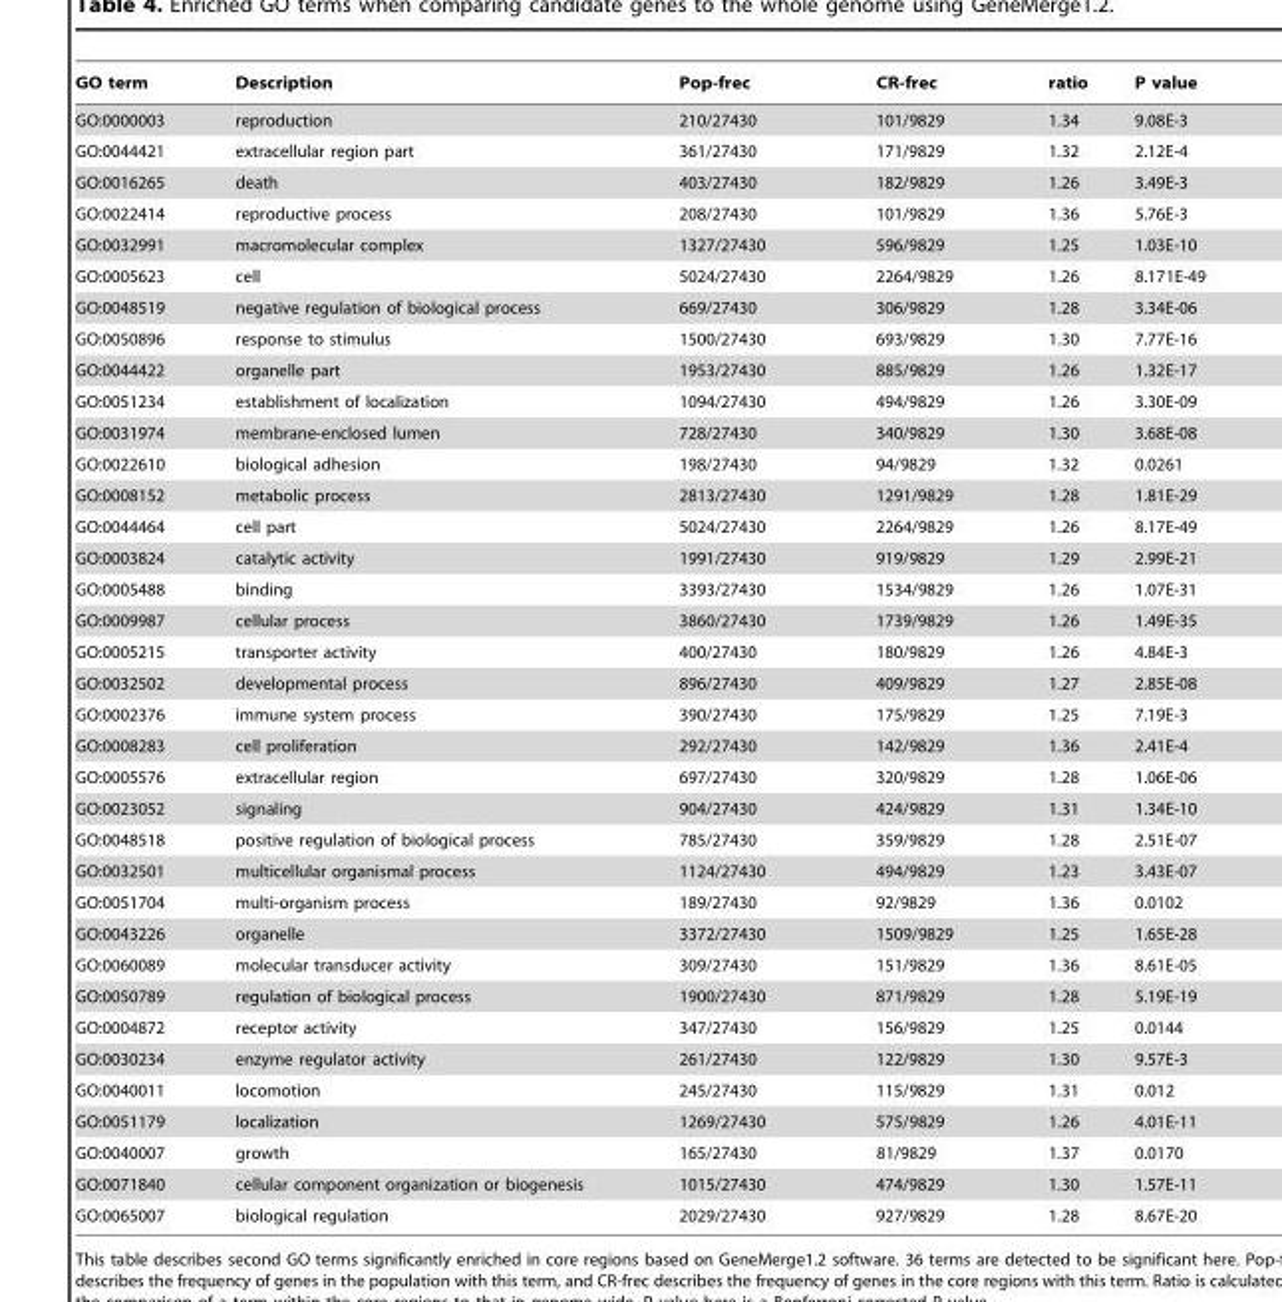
<table><thead><tr><td>GO term</td><td>Description</td><td>Pop-frec</td><td>CR-frec</td><td>ratio</td><td>P value</td></tr></thead><tbody><tr><td>GO:0000003</td><td>reproduction</td><td>210/27430</td><td>101/9829</td><td>1.34</td><td>9.08E-3</td></tr><tr><td>GO:0044421</td><td>extracellular region part</td><td>361/27430</td><td>171/9829</td><td>1.32</td><td>2.12E-4</td></tr><tr><td>GO:0016265</td><td>death</td><td>403/27430</td><td>182/9829</td><td>1.26</td><td>3.49E-3</td></tr><tr><td>GO:0022414</td><td>reproductive process</td><td>208/27430</td><td>101/9829</td><td>1.36</td><td>5.76E-3</td></tr><tr><td>GO:0032991</td><td>macromolecular complex</td><td>1327/27430</td><td>596/9829</td><td>1.25</td><td>1.03E-10</td></tr><tr><td>GO:0005623</td><td>cell</td><td>5024/27430</td><td>2264/9829</td><td>1.26</td><td>8.171E-49</td></tr><tr><td>GO:0048519</td><td>negative regulation of biological process</td><td>669/27430</td><td>306/9829</td><td>1.28</td><td>3.34E-06</td></tr><tr><td>GO:0050896</td><td>response to stimulus</td><td>1500/27430</td><td>693/9829</td><td>1.30</td><td>7.77E-16</td></tr><tr><td>GO:0044422</td><td>organelle part</td><td>1953/27430</td><td>885/9829</td><td>1.26</td><td>1.32E-17</td></tr><tr><td>GO:0051234</td><td>establishment of localization</td><td>1094/27430</td><td>494/9829</td><td>1.26</td><td>3.30E-09</td></tr><tr><td>GO:0031974</td><td>membrane-enclosed lumen</td><td>728/27430</td><td>340/9829</td><td>1.30</td><td>3.68E-08</td></tr><tr><td>GO:0022610</td><td>biological adhesion</td><td>198/27430</td><td>94/9829</td><td>1.32</td><td>0.0261</td></tr><tr><td>GO:0008152</td><td>metabolic process</td><td>2813/27430</td><td>1291/9829</td><td>1.28</td><td>1.81E-29</td></tr><tr><td>GO:0044464</td><td>cell part</td><td>5024/27430</td><td>2264/9829</td><td>1.26</td><td>8.17E-49</td></tr><tr><td>GO:0003824</td><td>catalytic activity</td><td>1991/27430</td><td>919/9829</td><td>1.29</td><td>2.99E-21</td></tr><tr><td>GO:0005488</td><td>binding</td><td>3393/27430</td><td>1534/9829</td><td>1.26</td><td>1.07E-31</td></tr><tr><td>GO:0009987</td><td>cellular process</td><td>3860/27430</td><td>1739/9829</td><td>1.26</td><td>1.49E-35</td></tr><tr><td>GO:0005215</td><td>transporter activity</td><td>400/27430</td><td>180/9829</td><td>1.26</td><td>4.84E-3</td></tr><tr><td>GO:0032502</td><td>developmental process</td><td>896/27430</td><td>409/9829</td><td>1.27</td><td>2.85E-08</td></tr><tr><td>GO:0002376</td><td>immune system process</td><td>390/27430</td><td>175/9829</td><td>1.25</td><td>7.19E-3</td></tr><tr><td>GO:0008283</td><td>cell proliferation</td><td>292/27430</td><td>142/9829</td><td>1.36</td><td>2.41E-4</td></tr><tr><td>GO:0005576</td><td>extracellular region</td><td>697/27430</td><td>320/9829</td><td>1.28</td><td>1.06E-06</td></tr><tr><td>GO:0023052</td><td>signaling</td><td>904/27430</td><td>424/9829</td><td>1.31</td><td>1.34E-10</td></tr><tr><td>GO:0048518</td><td>positive regulation of biological process</td><td>785/27430</td><td>359/9829</td><td>1.28</td><td>2.51E-07</td></tr><tr><td>GO:0032501</td><td>multicellular organismal process</td><td>1124/27430</td><td>494/9829</td><td>1.23</td><td>3.43E-07</td></tr><tr><td>GO:0051704</td><td>multi-organism process</td><td>189/27430</td><td>92/9829</td><td>1.36</td><td>0.0102</td></tr><tr><td>GO:0043226</td><td>organelle</td><td>3372/27430</td><td>1509/9829</td><td>1.25</td><td>1.65E-28</td></tr><tr><td>GO:0060089</td><td>molecular transducer activity</td><td>309/27430</td><td>151/9829</td><td>1.36</td><td>8.61E-05</td></tr><tr><td>GO:0050789</td><td>regulation of biological process</td><td>1900/27430</td><td>871/9829</td><td>1.28</td><td>5.19E-19</td></tr><tr><td>GO:0004872</td><td>receptor activity</td><td>347/27430</td><td>156/9829</td><td>1.25</td><td>0.0144</td></tr><tr><td>GO:0030234</td><td>enzyme regulator activity</td><td>261/27430</td><td>122/9829</td><td>1.30</td><td>9.57E-3</td></tr><tr><td>GO:0040011</td><td>locomotion</td><td>245/27430</td><td>115/9829</td><td>1.31</td><td>0.012</td></tr><tr><td>GO:0051179</td><td>localization</td><td>1269/27430</td><td>575/9829</td><td>1.26</td><td>4.01E-11</td></tr><tr><td>GO:0040007</td><td>growth</td><td>165/27430</td><td>81/9829</td><td>1.37</td><td>0.0170</td></tr><tr><td>GO:0071840</td><td>cellular component organization or biogenesis</td><td>1015/27430</td><td>474/9829</td><td>1.30</td><td>1.57E-11</td></tr><tr><td>GO:0065007</td><td>biological regulation</td><td>2029/27430</td><td>927/9829</td><td>1.28</td><td>8.67E-20</td></tr></tbody></table>